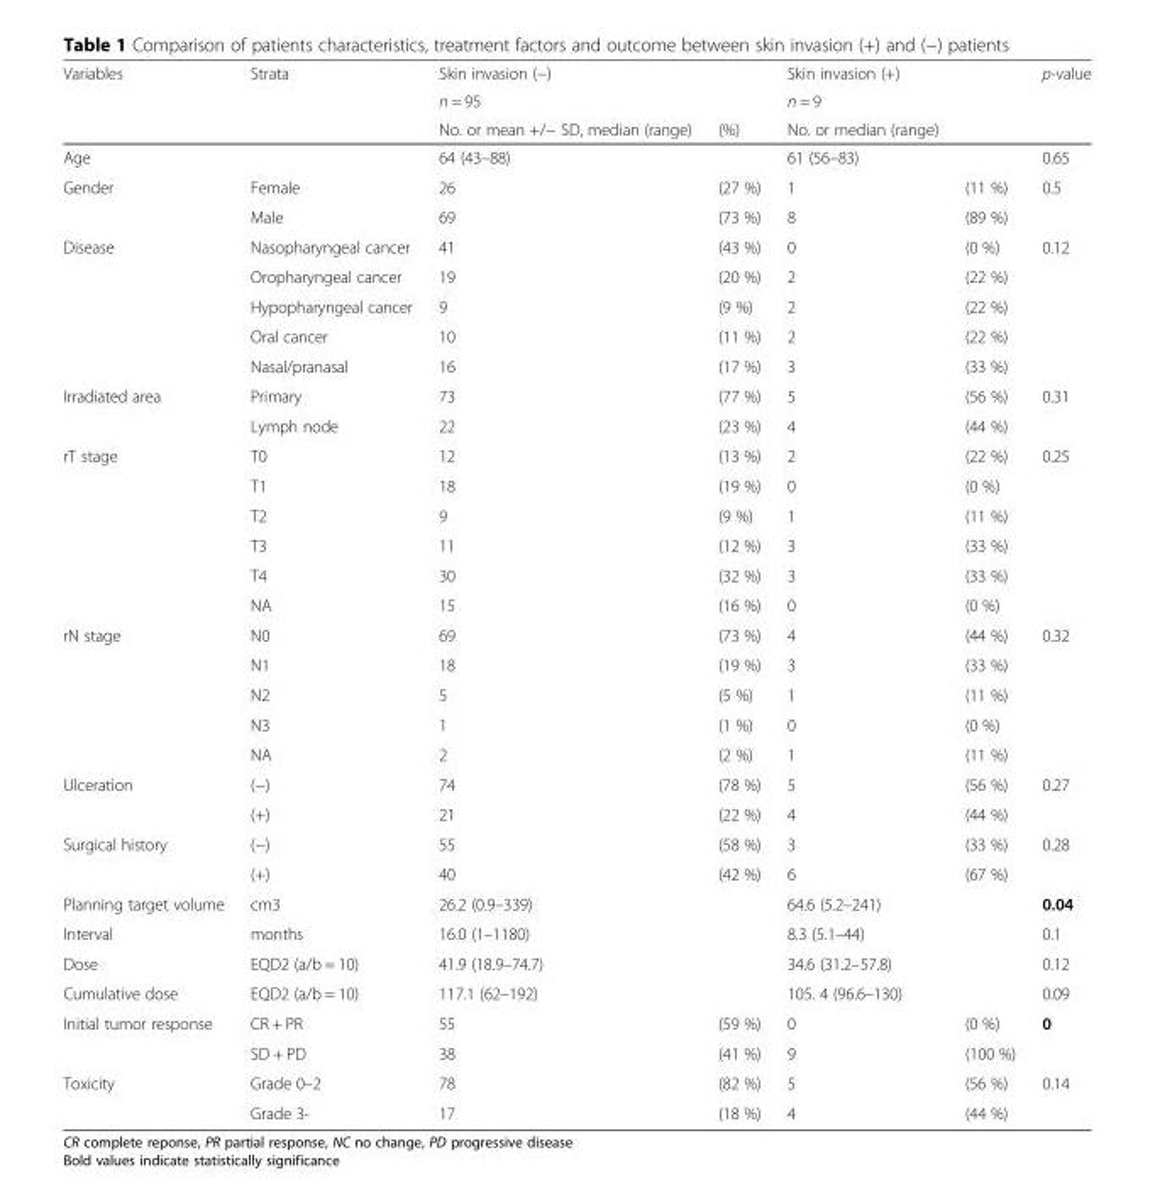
<table><thead><tr><td rowspan="3">Variables</td><td rowspan="3">Strata</td><td rowspan="3">Skin invasion (−) n = 95 No. or mean +/− SD, median (range)</td><td rowspan="3">(%)</td><td rowspan="3">Skin invasion (+) n = 9 No. or median (range)</td><td rowspan="3"></td><td rowspan="3">p-value</td></tr><tr></tr><tr></tr></thead><tbody><tr><td>Age</td><td></td><td>64 (43–88)</td><td></td><td>61 (56–83)</td><td></td><td>0.65</td></tr><tr><td rowspan="2">Gender</td><td>Female</td><td>26</td><td>(27 %)</td><td>1</td><td>(11 %)</td><td>0.5</td></tr><tr><td>Male</td><td>69</td><td>(73 %)</td><td>8</td><td>(89 %)</td><td></td></tr><tr><td rowspan="5">Disease</td><td>Nasopharyngeal cancer</td><td>41</td><td>(43 %)</td><td>0</td><td>(0 %)</td><td>0.12</td></tr><tr><td>Oropharyngeal cancer</td><td>19</td><td>(20 %)</td><td>2</td><td>(22 %)</td><td></td></tr><tr><td>Hypopharyngeal cancer</td><td>9</td><td>(9 %)</td><td>2</td><td>(22 %)</td><td></td></tr><tr><td>Oral cancer</td><td>10</td><td>(11 %)</td><td>2</td><td>(22 %)</td><td></td></tr><tr><td>Nasal/pranasal</td><td>16</td><td>(17 %)</td><td>3</td><td>(33 %)</td><td></td></tr><tr><td rowspan="2">Irradiated area</td><td>Primary</td><td>73</td><td>(77 %)</td><td>5</td><td>(56 %)</td><td>0.31</td></tr><tr><td>Lymph node</td><td>22</td><td>(23 %)</td><td>4</td><td>(44 %)</td><td></td></tr><tr><td rowspan="6">rT stage</td><td>T0</td><td>12</td><td>(13 %)</td><td>2</td><td>(22 %)</td><td>0.25</td></tr><tr><td>T1</td><td>18</td><td>(19 %)</td><td>0</td><td>(0 %)</td><td></td></tr><tr><td>T2</td><td>9</td><td>(9 %)</td><td>1</td><td>(11 %)</td><td></td></tr><tr><td>T3</td><td>11</td><td>(12 %)</td><td>3</td><td>(33 %)</td><td></td></tr><tr><td>T4</td><td>30</td><td>(32 %)</td><td>3</td><td>(33 %)</td><td></td></tr><tr><td>NA</td><td>15</td><td>(16 %)</td><td>0</td><td>(0 %)</td><td></td></tr><tr><td rowspan="5">rN stage</td><td>N0</td><td>69</td><td>(73 %)</td><td>4</td><td>(44 %)</td><td>0.32</td></tr><tr><td>N1</td><td>18</td><td>(19 %)</td><td>3</td><td>(33 %)</td><td></td></tr><tr><td>N2</td><td>5</td><td>(5 %)</td><td>1</td><td>(11 %)</td><td></td></tr><tr><td>N3</td><td>1</td><td>(1 %)</td><td>0</td><td>(0 %)</td><td></td></tr><tr><td>NA</td><td>2</td><td>(2 %)</td><td>1</td><td>(11 %)</td><td></td></tr><tr><td rowspan="2">Ulceration</td><td>(−)</td><td>74</td><td>(78 %)</td><td>5</td><td>(56 %)</td><td>0.27</td></tr><tr><td>(+)</td><td>21</td><td>(22 %)</td><td>4</td><td>(44 %)</td><td></td></tr><tr><td rowspan="2">Surgical history</td><td>(−)</td><td>55</td><td>(58 %)</td><td>3</td><td>(33 %)</td><td>0.28</td></tr><tr><td>(+)</td><td>40</td><td>(42 %)</td><td>6</td><td>(67 %)</td><td></td></tr><tr><td>Planning target volume</td><td>cm3</td><td>26.2 (0.9–339)</td><td></td><td>64.6 (5.2–241)</td><td></td><td>0.04</td></tr><tr><td>Interval</td><td>months</td><td>16.0 (1–1180)</td><td></td><td>8.3 (5.1–44)</td><td></td><td>0.1</td></tr><tr><td>Dose</td><td>EQD2 (a/b = 10)</td><td>41.9 (18.9–74.7)</td><td></td><td>34.6 (31.2–57.8)</td><td></td><td>0.12</td></tr><tr><td>Cumulative dose</td><td>EQD2 (a/b = 10)</td><td>117.1 (62–192)</td><td></td><td>105. 4 (96.6–130)</td><td></td><td>0.09</td></tr><tr><td rowspan="2">Initial tumor response</td><td>CR + PR</td><td>55</td><td>(59 %)</td><td>0</td><td>(0 %)</td><td>0</td></tr><tr><td>SD + PD</td><td>38</td><td>(41 %)</td><td>9</td><td>(100 %)</td><td></td></tr><tr><td rowspan="2">Toxicity</td><td>Grade 0–2</td><td>78</td><td>(82 %)</td><td>5</td><td>(56 %)</td><td>0.14</td></tr><tr><td>Grade 3-</td><td>17</td><td>(18 %)</td><td>4</td><td>(44 %)</td><td></td></tr></tbody></table>